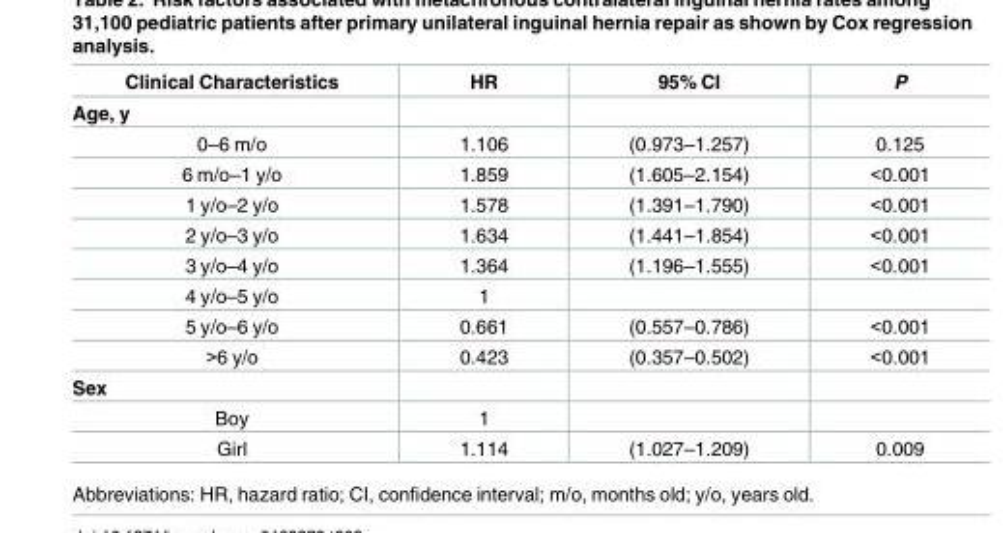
<table><thead><tr><td>Clinical Characteristics</td><td>HR</td><td>95% CI</td><td>P</td></tr></thead><tbody><tr><td colspan="4">Age, y</td></tr><tr><td>0–6 m/o</td><td>1.106</td><td>(0.973–1.257)</td><td>0.125</td></tr><tr><td>6 m/o–1 y/o</td><td>1.859</td><td>(1.605–2.154)</td><td>&lt;0.001</td></tr><tr><td>1 y/o–2 y/o</td><td>1.578</td><td>(1.391–1.790)</td><td>&lt;0.001</td></tr><tr><td>2 y/o–3 y/o</td><td>1.634</td><td>(1.441–1.854)</td><td>&lt;0.001</td></tr><tr><td>3 y/o–4 y/o</td><td>1.364</td><td>(1.196–1.555)</td><td>&lt;0.001</td></tr><tr><td>4 y/o–5 y/o</td><td>1</td><td></td><td></td></tr><tr><td>5 y/o–6 y/o</td><td>0.661</td><td>(0.557–0.786)</td><td>&lt;0.001</td></tr><tr><td>&gt;6 y/o</td><td>0.423</td><td>(0.357–0.502)</td><td>&lt;0.001</td></tr><tr><td colspan="4">Sex</td></tr><tr><td>Boy</td><td>1</td><td></td><td></td></tr><tr><td>Girl</td><td>1.114</td><td>(1.027–1.209)</td><td>0.009</td></tr></tbody></table>